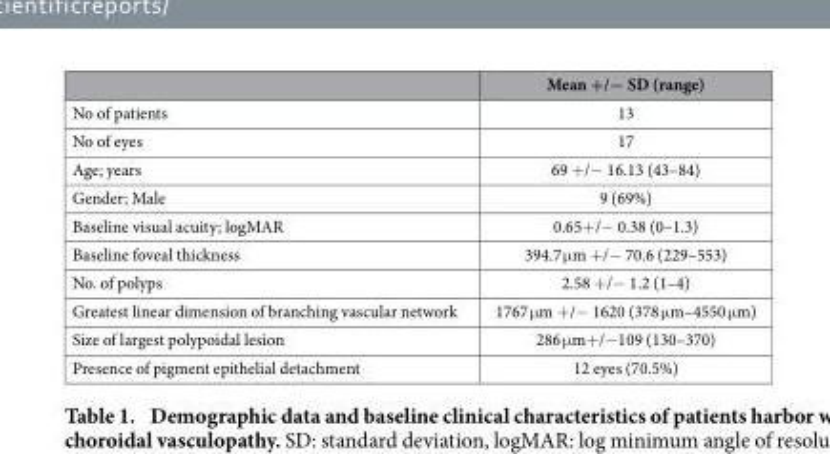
<table><thead><tr><td></td><td>Mean +/− SD (range)</td></tr></thead><tbody><tr><td>No of patients</td><td>13</td></tr><tr><td>No of eyes</td><td>17</td></tr><tr><td>Age; years</td><td>69 + /− 16.13 (43–84)</td></tr><tr><td>Gender; Male</td><td>9 (69%)</td></tr><tr><td>Baseline visual acuity; logMAR</td><td>0.65+ /− 0.38 (0–1.3)</td></tr><tr><td>Baseline foveal thickness</td><td>394.7 μ m + /− 70.6 (229–553)</td></tr><tr><td>No. of polyps</td><td>2.58 + /− 1.2 (1–4)</td></tr><tr><td>Greatest linear dimension of branching vascular network</td><td>1767 μ m + /− 1620 (378 μ m–4550 μ m)</td></tr><tr><td>Size of largest polypoidal lesion</td><td>286 μ m+ /− 109 (130–370)</td></tr><tr><td>Presence of pigment epithelial detachment</td><td>12 eyes (70.5%)</td></tr></tbody></table>